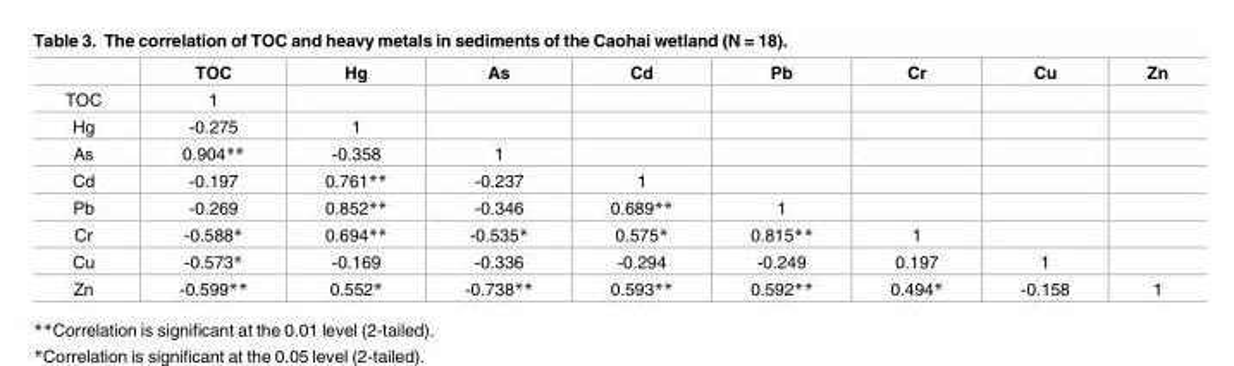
<table><thead><tr><td></td><td>TOC</td><td>Hg</td><td>As</td><td>Cd</td><td>Pb</td><td>Cr</td><td>Cu</td><td>Zn</td></tr></thead><tbody><tr><td>TOC</td><td>1</td><td></td><td></td><td></td><td></td><td></td><td></td><td></td></tr><tr><td>Hg</td><td>-0.275</td><td>1</td><td></td><td></td><td></td><td></td><td></td><td></td></tr><tr><td>As</td><td>0.904**</td><td>-0.358</td><td>1</td><td></td><td></td><td></td><td></td><td></td></tr><tr><td>Cd</td><td>-0.197</td><td>0.761**</td><td>-0.237</td><td>1</td><td></td><td></td><td></td><td></td></tr><tr><td>Pb</td><td>-0.269</td><td>0.852**</td><td>-0.346</td><td>0.689**</td><td>1</td><td></td><td></td><td></td></tr><tr><td>Cr</td><td>-0.588*</td><td>0.694**</td><td>-0.535*</td><td>0.575*</td><td>0.815**</td><td>1</td><td></td><td></td></tr><tr><td>Cu</td><td>-0.573*</td><td>-0.169</td><td>-0.336</td><td>-0.294</td><td>-0.249</td><td>0.197</td><td>1</td><td></td></tr><tr><td>Zn</td><td>-0.599**</td><td>0.552*</td><td>-0.738**</td><td>0.593**</td><td>0.592**</td><td>0.494*</td><td>-0.158</td><td>1</td></tr></tbody></table>